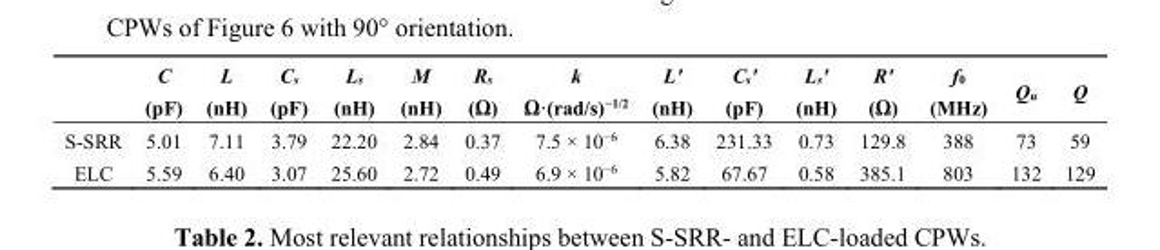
<table><thead><tr><td></td><td>C (pF)</td><td>L (nH)</td><td>C<sub>s</sub> (pF)</td><td>L<sub>s</sub> (nH)</td><td>M (nH)</td><td>R<sub>s</sub> (Ω)</td><td>k Ω·(rad/s)<sup>−1/2</sup></td><td>L&#x27; (nH)</td><td>C<sub>s</sub>&#x27; (pF)</td><td>L<sub>s</sub>&#x27; (nH)</td><td>R&#x27; (Ω)</td><td>f<sub>0</sub> (MHz)</td><td>Q<sub>u</sub></td><td>Q</td></tr></thead><tbody><tr><td>S-SRR</td><td>5.01</td><td>7.11</td><td>3.79</td><td>22.20</td><td>2.84</td><td>0.37</td><td>7.5 × 10<sup>−6</sup></td><td>6.38</td><td>231.33</td><td>0.73</td><td>129.8</td><td>388</td><td>73</td><td>59</td></tr><tr><td>ELC</td><td>5.59</td><td>6.40</td><td>3.07</td><td>25.60</td><td>2.72</td><td>0.49</td><td>6.9 × 10<sup>−6</sup></td><td>5.82</td><td>67.67</td><td>0.58</td><td>385.1</td><td>803</td><td>132</td><td>129</td></tr></tbody></table>